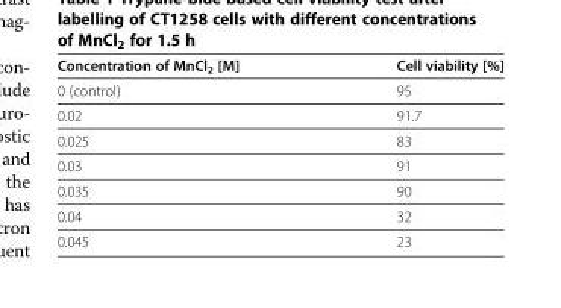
<table><thead><tr><td>Concentration of MnCl<sub>2</sub> [M]</td><td>Cell viability [%]</td></tr></thead><tbody><tr><td>0 (control)</td><td>95</td></tr><tr><td>0.02</td><td>91.7</td></tr><tr><td>0.025</td><td>83</td></tr><tr><td>0.03</td><td>91</td></tr><tr><td>0.035</td><td>90</td></tr><tr><td>0.04</td><td>32</td></tr><tr><td>0.045</td><td>23</td></tr></tbody></table>